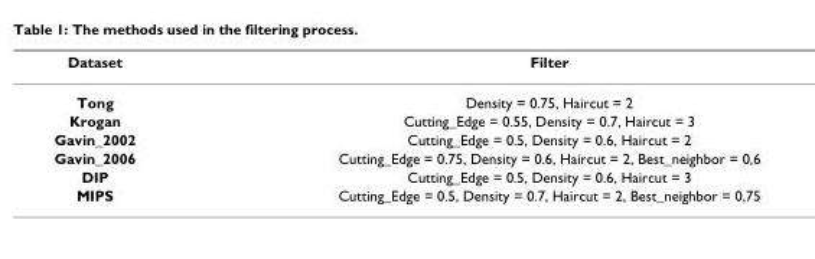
<table><thead><tr><td>Dataset</td><td>Filter</td></tr></thead><tbody><tr><td>Tong</td><td>Density = 0.75, Haircut = 2</td></tr><tr><td>Krogan</td><td>Cutting_Edge = 0.55, Density = 0.7, Haircut = 3</td></tr><tr><td>Gavin_2002</td><td>Cutting_Edge = 0.5, Density = 0.6, Haircut = 2</td></tr><tr><td>Gavin_2006</td><td>Cutting_Edge = 0.75, Density = 0.6, Haircut = 2, Best_neighbor = 0,6</td></tr><tr><td>DIP</td><td>Cutting_Edge = 0.5, Density = 0.6, Haircut = 3</td></tr><tr><td>MIPS</td><td>Cutting_Edge = 0.5, Density = 0.7, Haircut = 2, Best_neighbor = 0,75</td></tr></tbody></table>